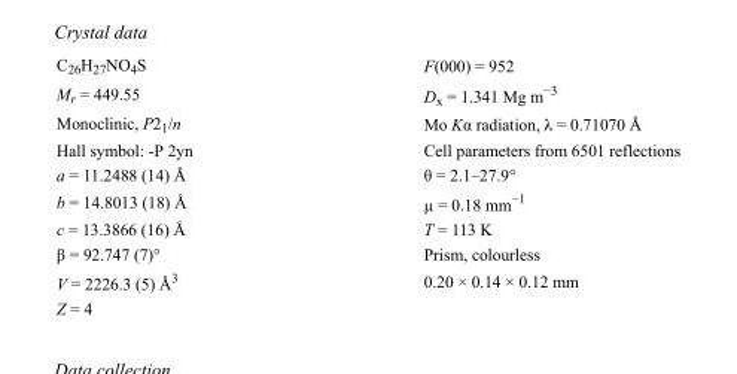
<table><tbody><tr><td>C<sub>26</sub>H<sub>27</sub>NO<sub>4</sub>S</td><td>F(000) = 952</td></tr><tr><td>M<sub>r</sub> = 449.55</td><td>D<sub>x</sub> = 1.341 Mg m<sup>−3</sup></td></tr><tr><td>Monoclinic, P2<sub>1</sub>/n</td><td>Mo Kα radiation, λ = 0.71070 Å</td></tr><tr><td>Hall symbol: -P 2yn</td><td>Cell parameters from 6501 reflections</td></tr><tr><td>a = 11.2488 (14) Å</td><td>θ = 2.1–27.9°</td></tr><tr><td>b = 14.8013 (18) Å</td><td>µ = 0.18 mm<sup>−1</sup></td></tr><tr><td>c = 13.3866 (16) Å</td><td>T = 113 K</td></tr><tr><td>β = 92.747 (7)°</td><td>Prism, colourless</td></tr><tr><td>V = 2226.3 (5) Å<sup>3</sup></td><td>0.20 × 0.14 × 0.12 mm</td></tr><tr><td>Z = 4</td><td></td></tr></tbody></table>